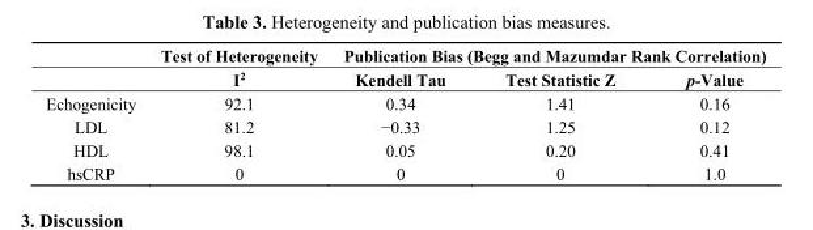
<table><thead><tr><td rowspan="2"></td><td rowspan="2">Test of Heterogeneity I<sup>2</sup></td><td colspan="3">Publication Bias (Begg and Mazumdar Rank Correlation)</td></tr><tr><td>Kendell Tau</td><td>Test Statistic Z</td><td>p-Value</td></tr></thead><tbody><tr><td>Echogenicity</td><td>92.1</td><td>0.34</td><td>1.41</td><td>0.16</td></tr><tr><td>LDL</td><td>81.2</td><td>−0.33</td><td>1.25</td><td>0.12</td></tr><tr><td>HDL</td><td>98.1</td><td>0.05</td><td>0.20</td><td>0.41</td></tr><tr><td>hsCRP</td><td>0</td><td>0</td><td>0</td><td>1.0</td></tr></tbody></table>